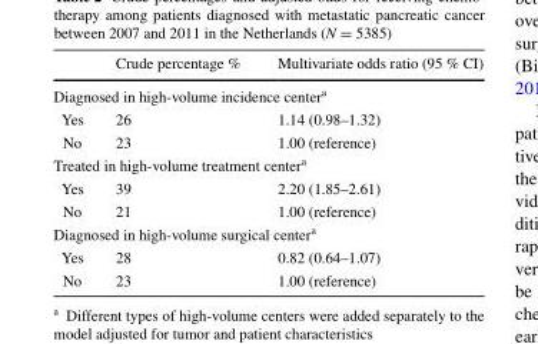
<table><thead><tr><td></td><td>Crude percentage %</td><td>Multivariate odds ratio (95 % CI)</td></tr></thead><tbody><tr><td colspan="3">Diagnosed in high-volume incidence center<sup>a</sup></td></tr><tr><td>Yes</td><td>26</td><td>1.14 (0.98–1.32)</td></tr><tr><td>No</td><td>23</td><td>1.00 (reference)</td></tr><tr><td colspan="3">Treated in high-volume treatment center<sup>a</sup></td></tr><tr><td>Yes</td><td>39</td><td>2.20 (1.85–2.61)</td></tr><tr><td>No</td><td>21</td><td>1.00 (reference)</td></tr><tr><td colspan="3">Diagnosed in high-volume surgical center<sup>a</sup></td></tr><tr><td>Yes</td><td>28</td><td>0.82 (0.64–1.07)</td></tr><tr><td>No</td><td>23</td><td>1.00 (reference)</td></tr></tbody></table>